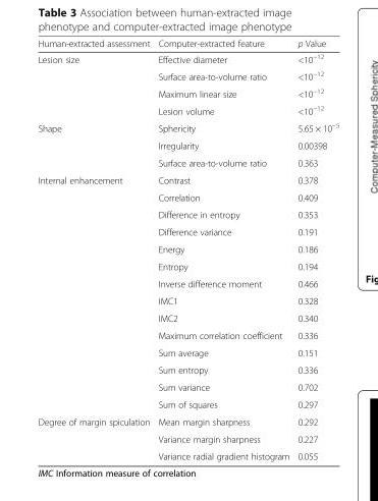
<table><thead><tr><td>Human-extracted assessment</td><td>Computer-extracted feature</td><td>p Value</td></tr></thead><tbody><tr><td rowspan="4">Lesion size</td><td>Effective diameter</td><td>&lt;10<sup>−12</sup></td></tr><tr><td>Surface area-to-volume ratio</td><td>&lt;10<sup>−12</sup></td></tr><tr><td>Maximum linear size</td><td>&lt;10<sup>−12</sup></td></tr><tr><td>Lesion volume</td><td>&lt;10<sup>−12</sup></td></tr><tr><td rowspan="3">Shape</td><td>Sphericity</td><td>5.65 × 10<sup>−5</sup></td></tr><tr><td>Irregularity</td><td>0.00398</td></tr><tr><td>Surface area-to-volume ratio</td><td>0.363</td></tr><tr><td rowspan="14">Internal enhancement</td><td>Contrast</td><td>0.378</td></tr><tr><td>Correlation</td><td>0.409</td></tr><tr><td>Difference in entropy</td><td>0.353</td></tr><tr><td>Difference variance</td><td>0.191</td></tr><tr><td>Energy</td><td>0.186</td></tr><tr><td>Entropy</td><td>0.194</td></tr><tr><td>Inverse difference moment</td><td>0.466</td></tr><tr><td>IMC1</td><td>0.328</td></tr><tr><td>IMC2</td><td>0.340</td></tr><tr><td>Maximum correlation coefficient</td><td>0.336</td></tr><tr><td>Sum average</td><td>0.151</td></tr><tr><td>Sum entropy</td><td>0.336</td></tr><tr><td>Sum variance</td><td>0.702</td></tr><tr><td>Sum of squares</td><td>0.297</td></tr><tr><td rowspan="3">Degree of margin spiculation</td><td>Mean margin sharpness</td><td>0.292</td></tr><tr><td>Variance margin sharpness</td><td>0.227</td></tr><tr><td>Variance radial gradient histogram</td><td>0.055</td></tr></tbody></table>